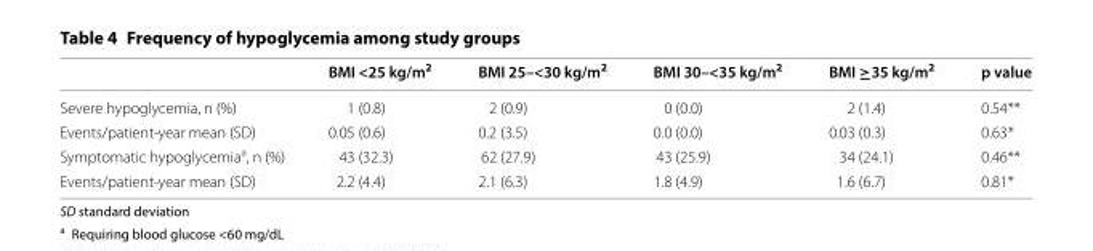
<table><thead><tr><td></td><td>BMI &lt;25 kg/m<sup>2</sup></td><td>BMI 25–&lt;30 kg/m<sup>2</sup></td><td>BMI 30–&lt;35 kg/m<sup>2</sup></td><td>BMI ≥35 kg/m<sup>2</sup></td><td>p value</td></tr></thead><tbody><tr><td>Severe hypoglycemia, n (%)</td><td>1 (0.8)</td><td>2 (0.9)</td><td>0 (0.0)</td><td>2 (1.4)</td><td>0.54**</td></tr><tr><td>Events/patient-year mean (SD)</td><td>0.05 (0.6)</td><td>0.2 (3.5)</td><td>0.0 (0.0)</td><td>0.03 (0.3)</td><td>0.63*</td></tr><tr><td>Symptomatic hypoglycemia<sup>a</sup>, n (%)</td><td>43 (32.3)</td><td>62 (27.9)</td><td>43 (25.9)</td><td>34 (24.1)</td><td>0.46**</td></tr><tr><td>Events/patient-year mean (SD)</td><td>2.2 (4.4)</td><td>2.1 (6.3)</td><td>1.8 (4.9)</td><td>1.6 (6.7)</td><td>0.81*</td></tr></tbody></table>